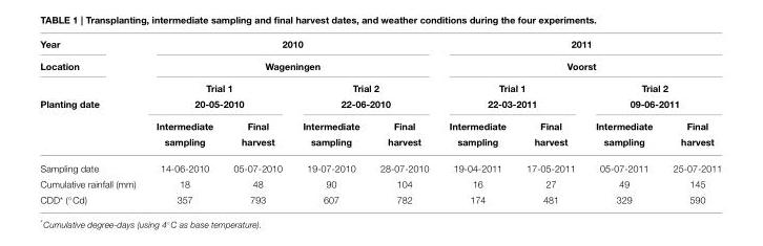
<table><thead><tr><td rowspan="5">Year Location Planting date</td><td rowspan="2" colspan="4">2010 Wageningen</td><td rowspan="2" colspan="4">2011 Voorst</td></tr><tr></tr><tr><td rowspan="2" colspan="2">Trial 1 20-05-2010</td><td rowspan="2" colspan="2">Trial 2 22-06-2010</td><td rowspan="2" colspan="2">Trial 1 22-03-2011</td><td rowspan="2" colspan="2">Trial 2 09-06-2011</td></tr><tr></tr><tr><td>Intermediate sampling</td><td>Final harvest</td><td>Intermediate sampling</td><td>Final harvest</td><td>Intermediate sampling</td><td>Final harvest</td><td>Intermediate sampling</td><td>Final harvest</td></tr></thead><tbody><tr><td>Sampling date</td><td>14-06-2010</td><td>05-07-2010</td><td>19-07-2010</td><td>28-07-2010</td><td>19-04-2011</td><td>17-05-2011</td><td>05-07-2011</td><td>25-07-2011</td></tr><tr><td>Cumulative rainfall (mm)</td><td>18</td><td>48</td><td>90</td><td>104</td><td>16</td><td>27</td><td>49</td><td>145</td></tr><tr><td>CDD* (◦Cd)</td><td>357</td><td>793</td><td>607</td><td>782</td><td>174</td><td>481</td><td>329</td><td>590</td></tr></tbody></table>